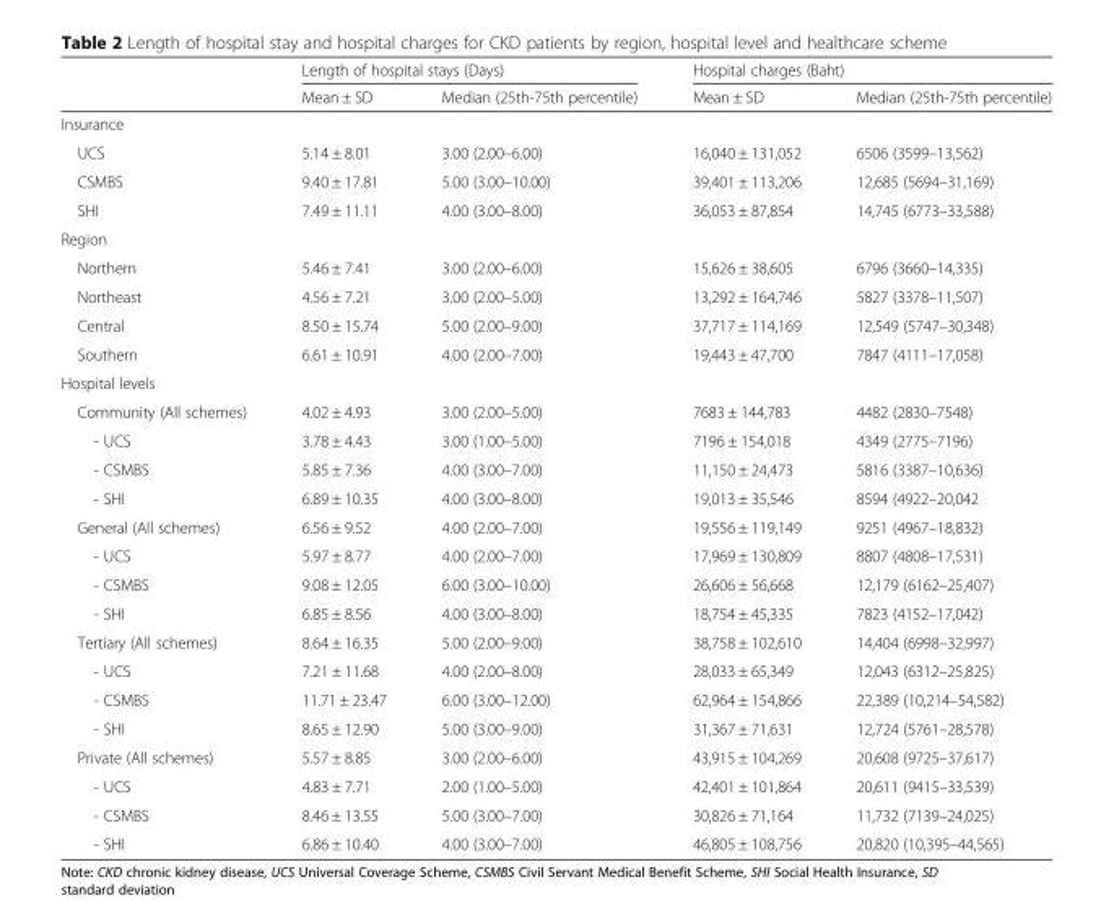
<table><thead><tr><td rowspan="2"></td><td colspan="2">Length of hospital stays (Days)</td><td colspan="2">Hospital charges (Baht)</td></tr><tr><td>Mean ± SD</td><td>Median (25th-75th percentile)</td><td>Mean ± SD</td><td>Median (25th-75th percentile)</td></tr></thead><tbody><tr><td colspan="5">Insurance</td></tr><tr><td>UCS</td><td>5.14 ± 8.01</td><td>3.00 (2.00–6.00)</td><td>16,040 ± 131,052</td><td>6506 (3599–13,562)</td></tr><tr><td>CSMBS</td><td>9.40 ± 17.81</td><td>5.00 (3.00–10.00)</td><td>39,401 ± 113,206</td><td>12,685 (5694–31,169)</td></tr><tr><td>SHI</td><td>7.49 ± 11.11</td><td>4.00 (3.00–8.00)</td><td>36,053 ± 87,854</td><td>14,745 (6773–33,588)</td></tr><tr><td colspan="5">Region</td></tr><tr><td>Northern</td><td>5.46 ± 7.41</td><td>3.00 (2.00–6.00)</td><td>15,626 ± 38,605</td><td>6796 (3660–14,335)</td></tr><tr><td>Northeast</td><td>4.56 ± 7.21</td><td>3.00 (2.00–5.00)</td><td>13,292 ± 164,746</td><td>5827 (3378–11,507)</td></tr><tr><td>Central</td><td>8.50 ± 15.74</td><td>5.00 (2.00–9.00)</td><td>37,717 ± 114,169</td><td>12,549 (5747–30,348)</td></tr><tr><td>Southern</td><td>6.61 ± 10.91</td><td>4.00 (2.00–7.00)</td><td>19,443 ± 47,700</td><td>7847 (4111–17,058)</td></tr><tr><td colspan="5">Hospital levels</td></tr><tr><td>Community (All schemes)</td><td>4.02 ± 4.93</td><td>3.00 (2.00–5.00)</td><td>7683 ± 144,783</td><td>4482 (2830–7548)</td></tr><tr><td>- UCS</td><td>3.78 ± 4.43</td><td>3.00 (1.00–5.00)</td><td>7196 ± 154,018</td><td>4349 (2775–7196)</td></tr><tr><td>- CSMBS</td><td>5.85 ± 7.36</td><td>4.00 (3.00–7.00)</td><td>11,150 ± 24,473</td><td>5816 (3387–10,636)</td></tr><tr><td>- SHI</td><td>6.89 ± 10.35</td><td>4.00 (3.00–8.00)</td><td>19,013 ± 35,546</td><td>8594 (4922–20,042</td></tr><tr><td>General (All schemes)</td><td>6.56 ± 9.52</td><td>4.00 (2.00–7.00)</td><td>19,556 ± 119,149</td><td>9251 (4967–18,832)</td></tr><tr><td>- UCS</td><td>5.97 ± 8.77</td><td>4.00 (2.00–7.00)</td><td>17,969 ± 130,809</td><td>8807 (4808–17,531)</td></tr><tr><td>- CSMBS</td><td>9.08 ± 12.05</td><td>6.00 (3.00–10.00)</td><td>26,606 ± 56,668</td><td>12,179 (6162–25,407)</td></tr><tr><td>- SHI</td><td>6.85 ± 8.56</td><td>4.00 (3.00–8.00)</td><td>18,754 ± 45,335</td><td>7823 (4152–17,042)</td></tr><tr><td>Tertiary (All schemes)</td><td>8.64 ± 16.35</td><td>5.00 (2.00–9.00)</td><td>38,758 ± 102,610</td><td>14,404 (6998–32,997)</td></tr><tr><td>- UCS</td><td>7.21 ± 11.68</td><td>4.00 (2.00–8.00)</td><td>28,033 ± 65,349</td><td>12,043 (6312–25,825)</td></tr><tr><td>- CSMBS</td><td>11.71 ± 23.47</td><td>6.00 (3.00–12.00)</td><td>62,964 ± 154,866</td><td>22,389 (10,214–54,582)</td></tr><tr><td>- SHI</td><td>8.65 ± 12.90</td><td>5.00 (3.00–9.00)</td><td>31,367 ± 71,631</td><td>12,724 (5761–28,578)</td></tr><tr><td>Private (All schemes)</td><td>5.57 ± 8.85</td><td>3.00 (2.00–6.00)</td><td>43,915 ± 104,269</td><td>20,608 (9725–37,617)</td></tr><tr><td>- UCS</td><td>4.83 ± 7.71</td><td>2.00 (1.00–5.00)</td><td>42,401 ± 101,864</td><td>20,611 (9415–33,539)</td></tr><tr><td>- CSMBS</td><td>8.46 ± 13.55</td><td>5.00 (3.00–7.00)</td><td>30,826 ± 71,164</td><td>11,732 (7139–24,025)</td></tr><tr><td>- SHI</td><td>6.86 ± 10.40</td><td>4.00 (3.00–7.00)</td><td>46,805 ± 108,756</td><td>20,820 (10,395–44,565)</td></tr></tbody></table>